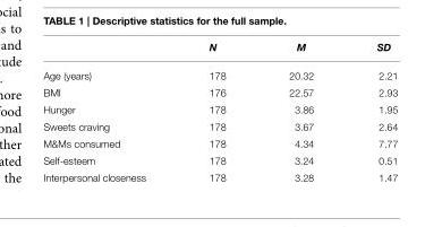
<table><thead><tr><td></td><td>N</td><td>M</td><td>SD</td></tr></thead><tbody><tr><td>Age (years)</td><td>178</td><td>20.32</td><td>2.21</td></tr><tr><td>BMI</td><td>176</td><td>22.57</td><td>2.93</td></tr><tr><td>Hunger</td><td>178</td><td>3.86</td><td>1.95</td></tr><tr><td>Sweets craving</td><td>178</td><td>3.67</td><td>2.64</td></tr><tr><td>M&amp;Ms consumed</td><td>178</td><td>4.34</td><td>7.77</td></tr><tr><td>Self-esteem</td><td>178</td><td>3.24</td><td>0.51</td></tr><tr><td>Interpersonal closeness</td><td>178</td><td>3.28</td><td>1.47</td></tr></tbody></table>